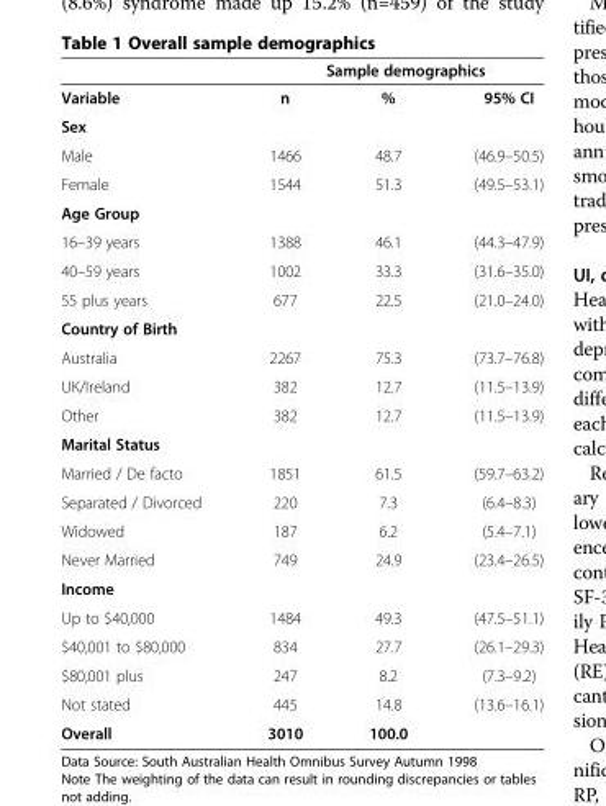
<table><thead><tr><td rowspan="2">Variable</td><td colspan="3">Sample demographics</td></tr><tr><td>n</td><td>%</td><td>95% CI</td></tr></thead><tbody><tr><td colspan="4">Sex</td></tr><tr><td>Male</td><td>1466</td><td>48.7</td><td>(46.9–50.5)</td></tr><tr><td>Female</td><td>1544</td><td>51.3</td><td>(49.5–53.1)</td></tr><tr><td colspan="4">Age Group</td></tr><tr><td>16–39 years</td><td>1388</td><td>46.1</td><td>(44.3–47.9)</td></tr><tr><td>40–59 years</td><td>1002</td><td>33.3</td><td>(31.6–35.0)</td></tr><tr><td>55 plus years</td><td>677</td><td>22.5</td><td>(21.0–24.0)</td></tr><tr><td colspan="4">Country of Birth</td></tr><tr><td>Australia</td><td>2267</td><td>75.3</td><td>(73.7–76.8)</td></tr><tr><td>UK/Ireland</td><td>382</td><td>12.7</td><td>(11.5–13.9)</td></tr><tr><td>Other</td><td>382</td><td>12.7</td><td>(11.5–13.9)</td></tr><tr><td colspan="4">Marital Status</td></tr><tr><td>Married / De facto</td><td>1851</td><td>61.5</td><td>(59.7–63.2)</td></tr><tr><td>Separated / Divorced</td><td>220</td><td>7.3</td><td>(6.4–8.3)</td></tr><tr><td>Widowed</td><td>187</td><td>6.2</td><td>(5.4–7.1)</td></tr><tr><td>Never Married</td><td>749</td><td>24.9</td><td>(23.4–26.5)</td></tr><tr><td colspan="4">Income</td></tr><tr><td>Up to $40,000</td><td>1484</td><td>49.3</td><td>(47.5–51.1)</td></tr><tr><td>$40,001 to $80,000</td><td>834</td><td>27.7</td><td>(26.1–29.3)</td></tr><tr><td>$80,001 plus</td><td>247</td><td>8.2</td><td>(7.3–9.2)</td></tr><tr><td>Not stated</td><td>445</td><td>14.8</td><td>(13.6–16.1)</td></tr><tr><td>Overall</td><td>3010</td><td>100.0</td><td></td></tr></tbody></table>